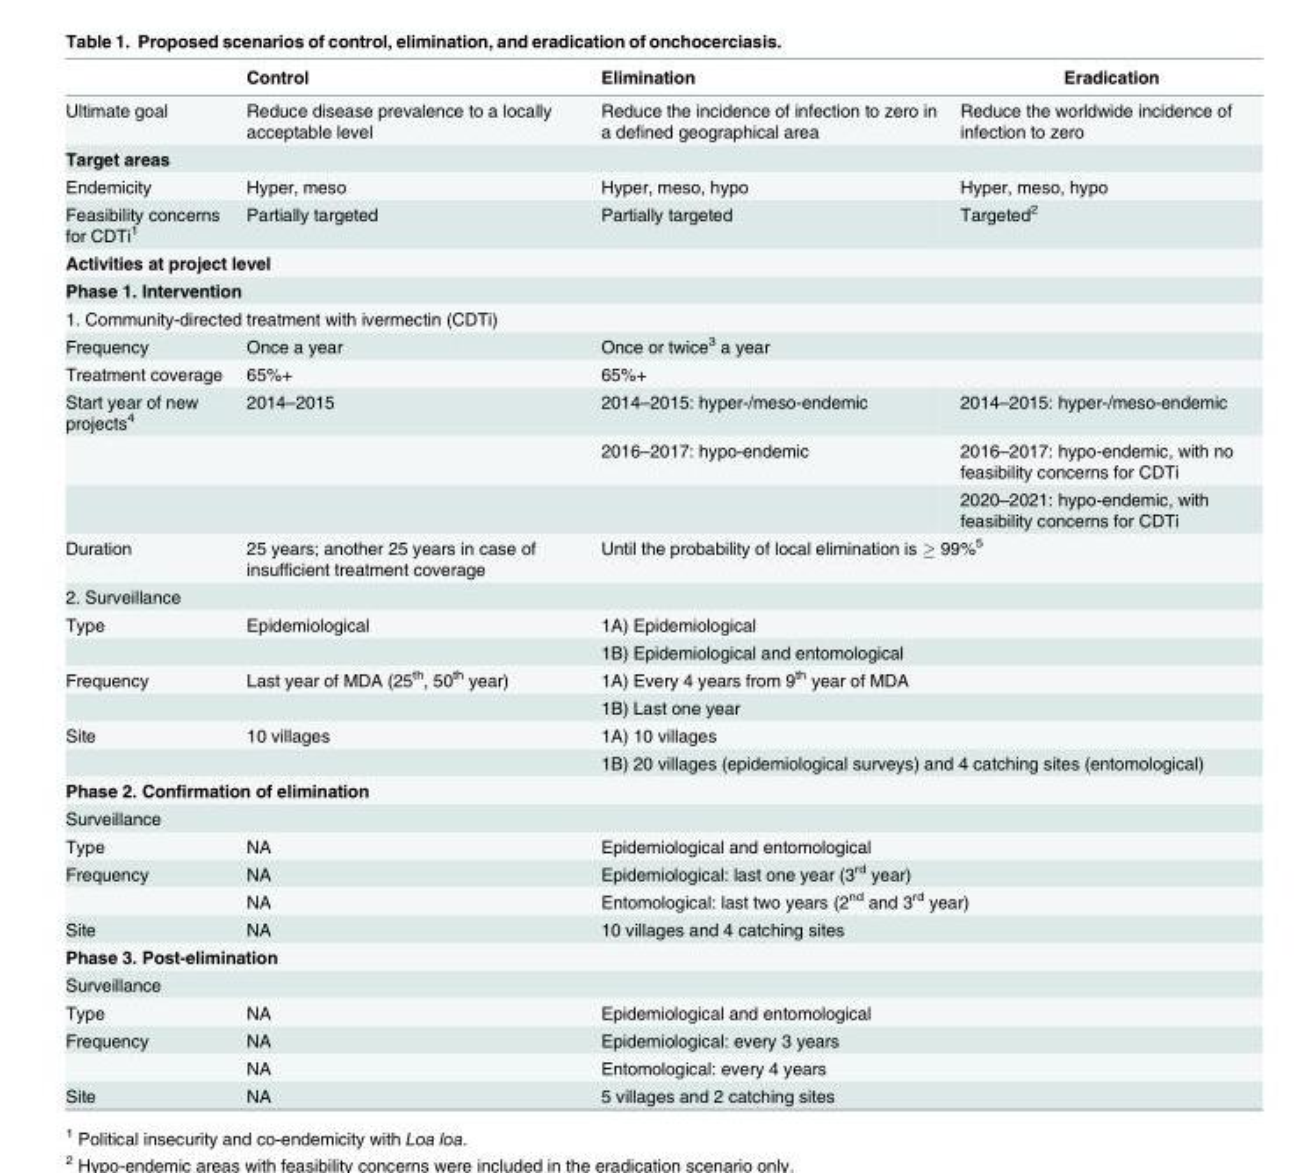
<table><thead><tr><td></td><td>Control</td><td>Elimination</td><td>Eradication</td></tr></thead><tbody><tr><td>Ultimate goal</td><td>Reduce disease prevalence to a locally acceptable level</td><td>Reduce the incidence of infection to zero in a defined geographical area</td><td>Reduce the worldwide incidence of infection to zero</td></tr><tr><td colspan="4">Target areas</td></tr><tr><td>Endemicity</td><td>Hyper, meso</td><td>Hyper, meso, hypo</td><td>Hyper, meso, hypo</td></tr><tr><td>Feasibility concerns for CDTi<sup>1</sup></td><td>Partially targeted</td><td>Partially targeted</td><td>Targeted<sup>2</sup></td></tr><tr><td colspan="4">Activities at project level</td></tr><tr><td colspan="4">Phase 1. Intervention</td></tr><tr><td colspan="4">1. Community-directed treatment with ivermectin (CDTi)</td></tr><tr><td>Frequency</td><td>Once a year</td><td colspan="2">Once or twice<sup>3</sup> a year</td></tr><tr><td>Treatment coverage</td><td>65%+</td><td colspan="2">65%+</td></tr><tr><td rowspan="3">Start year of new projects<sup>4</sup></td><td>2014–2015</td><td>2014–2015: hyper-/meso-endemic</td><td>2014–2015: hyper-/meso-endemic</td></tr><tr><td></td><td>2016–2017: hypo-endemic</td><td>2016–2017: hypo-endemic, with no feasibility concerns for CDTi</td></tr><tr><td></td><td></td><td>2020–2021: hypo-endemic, with feasibility concerns for CDTi</td></tr><tr><td>Duration</td><td>25 years; another 25 years in case of insufficient treatment coverage</td><td colspan="2">Until the probability of local elimination is ≥ 99%<sup>5</sup></td></tr><tr><td colspan="4">2. Surveillance</td></tr><tr><td rowspan="2">Type</td><td>Epidemiological</td><td colspan="2">1A) Epidemiological</td></tr><tr><td></td><td colspan="2">1B) Epidemiological and entomological</td></tr><tr><td rowspan="2">Frequency</td><td>Last year of MDA (25<sup>th</sup>, 50<sup>th</sup> year)</td><td colspan="2">1A) Every 4 years from 9<sup>th</sup> year of MDA</td></tr><tr><td></td><td colspan="2">1B) Last one year</td></tr><tr><td rowspan="2">Site</td><td>10 villages</td><td colspan="2">1A) 10 villages</td></tr><tr><td></td><td colspan="2">1B) 20 villages (epidemiological surveys) and 4 catching sites (entomological)</td></tr><tr><td colspan="4">Phase 2. Confirmation of elimination</td></tr><tr><td colspan="4">Surveillance</td></tr><tr><td>Type</td><td>NA</td><td colspan="2">Epidemiological and entomological</td></tr><tr><td rowspan="2">Frequency</td><td>NA</td><td colspan="2">Epidemiological: last one year (3<sup>rd</sup> year)</td></tr><tr><td>NA</td><td colspan="2">Entomological: last two years (2<sup>nd</sup> and 3<sup>rd</sup> year)</td></tr><tr><td>Site</td><td>NA</td><td colspan="2">10 villages and 4 catching sites</td></tr><tr><td colspan="4">Phase 3. Post-elimination</td></tr><tr><td colspan="4">Surveillance</td></tr><tr><td>Type</td><td>NA</td><td colspan="2">Epidemiological and entomological</td></tr><tr><td rowspan="2">Frequency</td><td>NA</td><td colspan="2">Epidemiological: every 3 years</td></tr><tr><td>NA</td><td colspan="2">Entomological: every 4 years</td></tr><tr><td>Site</td><td>NA</td><td colspan="2">5 villages and 2 catching sites</td></tr></tbody></table>